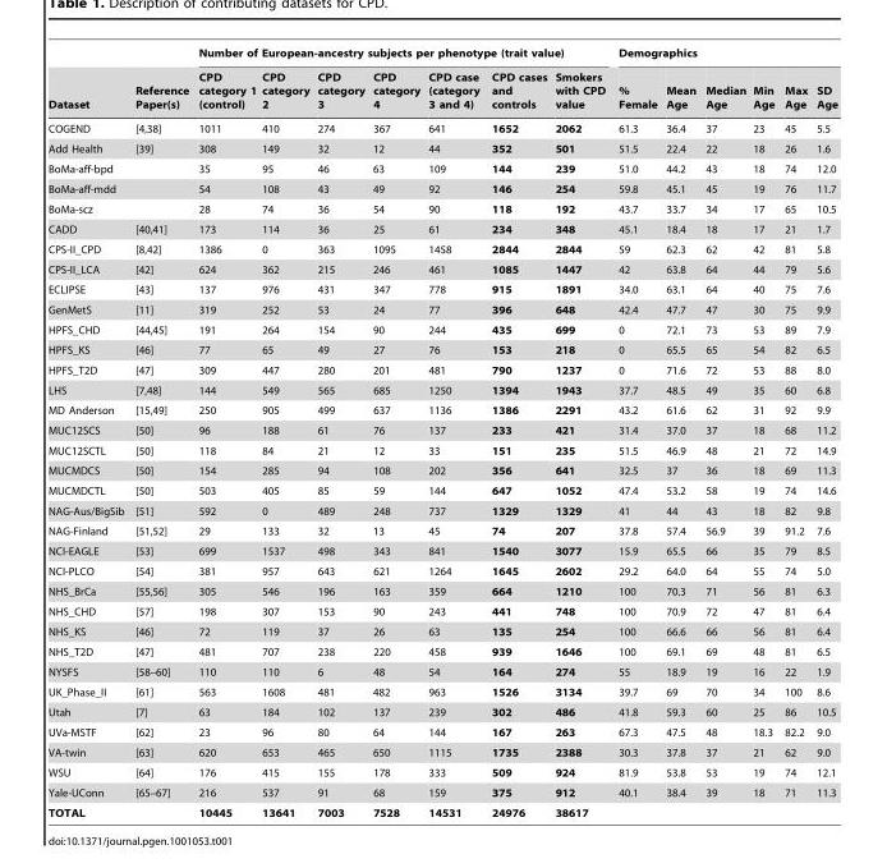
<table><thead><tr><td rowspan="2">Dataset</td><td rowspan="2">Reference Paper(s)</td><td colspan="7">Number of European-ancestry subjects per phenotype (trait value)</td><td colspan="6">Demographics</td></tr><tr><td>CPD category 1 (control)</td><td>CPD category 2</td><td>CPD category 3</td><td>CPD category 4</td><td>CPD case (category 3 and 4)</td><td>CPD cases and controls</td><td>Smokers with CPD value</td><td>% Female</td><td>Mean Age</td><td>Median Age</td><td>Min Age</td><td>Max Age</td><td>SD Age</td></tr></thead><tbody><tr><td>COGEND</td><td>[4,38]</td><td>1011</td><td>410</td><td>274</td><td>367</td><td>641</td><td>1652</td><td>2062</td><td>61.3</td><td>36.4</td><td>37</td><td>23</td><td>45</td><td>5.5</td></tr><tr><td>Add Health</td><td>[39]</td><td>308</td><td>149</td><td>32</td><td>12</td><td>44</td><td>352</td><td>501</td><td>51.5</td><td>22.4</td><td>22</td><td>18</td><td>26</td><td>1.6</td></tr><tr><td>BoMa-aff-bpd</td><td></td><td>35</td><td>95</td><td>46</td><td>63</td><td>109</td><td>144</td><td>239</td><td>51.0</td><td>44.2</td><td>43</td><td>18</td><td>74</td><td>12.0</td></tr><tr><td>BoMa-aff-mdd</td><td></td><td>54</td><td>108</td><td>43</td><td>49</td><td>92</td><td>146</td><td>254</td><td>59.8</td><td>45.1</td><td>45</td><td>19</td><td>76</td><td>11.7</td></tr><tr><td>BoMa-scz</td><td></td><td>28</td><td>74</td><td>36</td><td>54</td><td>90</td><td>118</td><td>192</td><td>43.7</td><td>33.7</td><td>34</td><td>17</td><td>65</td><td>10.5</td></tr><tr><td>CADD</td><td>[40,41]</td><td>173</td><td>114</td><td>36</td><td>25</td><td>61</td><td>234</td><td>348</td><td>45.1</td><td>18.4</td><td>18</td><td>17</td><td>21</td><td>1.7</td></tr><tr><td>CPS-II_CPD</td><td>[8,42]</td><td>1386</td><td>0</td><td>363</td><td>1095</td><td>1458</td><td>2844</td><td>2844</td><td>59</td><td>62.3</td><td>62</td><td>42</td><td>81</td><td>5.8</td></tr><tr><td>CPS-II_LCA</td><td>[42]</td><td>624</td><td>362</td><td>215</td><td>246</td><td>461</td><td>1085</td><td>1447</td><td>42</td><td>63.8</td><td>64</td><td>44</td><td>79</td><td>5.6</td></tr><tr><td>ECLIPSE</td><td>[43]</td><td>137</td><td>976</td><td>431</td><td>347</td><td>778</td><td>915</td><td>1891</td><td>34.0</td><td>63.1</td><td>64</td><td>40</td><td>75</td><td>7.6</td></tr><tr><td>GenMetS</td><td>[11]</td><td>319</td><td>252</td><td>53</td><td>24</td><td>77</td><td>396</td><td>648</td><td>42.4</td><td>47.7</td><td>47</td><td>30</td><td>75</td><td>9.9</td></tr><tr><td>HPFS_CHD</td><td>[44,45]</td><td>191</td><td>264</td><td>154</td><td>90</td><td>244</td><td>435</td><td>699</td><td>0</td><td>72.1</td><td>73</td><td>53</td><td>89</td><td>7.9</td></tr><tr><td>HPFS_KS</td><td>[46]</td><td>77</td><td>65</td><td>49</td><td>27</td><td>76</td><td>153</td><td>218</td><td>0</td><td>65.5</td><td>65</td><td>54</td><td>82</td><td>6.5</td></tr><tr><td>HPFS_T2D</td><td>[47]</td><td>309</td><td>447</td><td>280</td><td>201</td><td>481</td><td>790</td><td>1237</td><td>0</td><td>71.6</td><td>72</td><td>53</td><td>88</td><td>8.0</td></tr><tr><td>LHS</td><td>[7,48]</td><td>144</td><td>549</td><td>565</td><td>685</td><td>1250</td><td>1394</td><td>1943</td><td>37.7</td><td>48.5</td><td>49</td><td>35</td><td>60</td><td>6.8</td></tr><tr><td>MD Anderson</td><td>[15,49]</td><td>250</td><td>905</td><td>499</td><td>637</td><td>1136</td><td>1386</td><td>2291</td><td>43.2</td><td>61.6</td><td>62</td><td>31</td><td>92</td><td>9.9</td></tr><tr><td>MUC12SCS</td><td>[50]</td><td>96</td><td>188</td><td>61</td><td>76</td><td>137</td><td>233</td><td>421</td><td>31.4</td><td>37.0</td><td>37</td><td>18</td><td>68</td><td>11.2</td></tr><tr><td>MUC12SCTL</td><td>[50]</td><td>118</td><td>84</td><td>21</td><td>12</td><td>33</td><td>151</td><td>235</td><td>51.5</td><td>46.9</td><td>48</td><td>21</td><td>72</td><td>14.9</td></tr><tr><td>MUCMDCS</td><td>[50]</td><td>154</td><td>285</td><td>94</td><td>108</td><td>202</td><td>356</td><td>641</td><td>32.5</td><td>37</td><td>36</td><td>18</td><td>69</td><td>11.3</td></tr><tr><td>MUCMDCTL</td><td>[50]</td><td>503</td><td>405</td><td>85</td><td>59</td><td>144</td><td>647</td><td>1052</td><td>47.4</td><td>53.2</td><td>58</td><td>19</td><td>74</td><td>14.6</td></tr><tr><td>NAG-Aus/BigSib</td><td>[51]</td><td>592</td><td>0</td><td>489</td><td>248</td><td>737</td><td>1329</td><td>1329</td><td>41</td><td>44</td><td>43</td><td>18</td><td>82</td><td>9.8</td></tr><tr><td>NAG-Finland</td><td>[51,52]</td><td>29</td><td>133</td><td>32</td><td>13</td><td>45</td><td>74</td><td>207</td><td>37.8</td><td>57.4</td><td>56.9</td><td>39</td><td>91.2</td><td>7.6</td></tr><tr><td>NCI-EAGLE</td><td>[53]</td><td>699</td><td>1537</td><td>498</td><td>343</td><td>841</td><td>1540</td><td>3077</td><td>15.9</td><td>65.5</td><td>66</td><td>35</td><td>79</td><td>8.5</td></tr><tr><td>NCI-PLCO</td><td>[54]</td><td>381</td><td>957</td><td>643</td><td>621</td><td>1264</td><td>1645</td><td>2602</td><td>29.2</td><td>64.0</td><td>64</td><td>55</td><td>74</td><td>5.0</td></tr><tr><td>NHS_BrCa</td><td>[55,56]</td><td>305</td><td>546</td><td>196</td><td>163</td><td>359</td><td>664</td><td>1210</td><td>100</td><td>70.3</td><td>71</td><td>56</td><td>81</td><td>6.3</td></tr><tr><td>NHS_CHD</td><td>[57]</td><td>198</td><td>307</td><td>153</td><td>90</td><td>243</td><td>441</td><td>748</td><td>100</td><td>70.9</td><td>72</td><td>47</td><td>81</td><td>6.4</td></tr><tr><td>NHS_KS</td><td>[46]</td><td>72</td><td>119</td><td>37</td><td>26</td><td>63</td><td>135</td><td>254</td><td>100</td><td>66.6</td><td>66</td><td>56</td><td>81</td><td>6.4</td></tr><tr><td>NHS_T2D</td><td>[47]</td><td>481</td><td>707</td><td>238</td><td>220</td><td>458</td><td>939</td><td>1646</td><td>100</td><td>69.1</td><td>69</td><td>48</td><td>81</td><td>6.5</td></tr><tr><td>NYSFS</td><td>[58–60]</td><td>110</td><td>110</td><td>6</td><td>48</td><td>54</td><td>164</td><td>274</td><td>55</td><td>18.9</td><td>19</td><td>16</td><td>22</td><td>1.9</td></tr><tr><td>UK_Phase_II</td><td>[61]</td><td>563</td><td>1608</td><td>481</td><td>482</td><td>963</td><td>1526</td><td>3134</td><td>39.7</td><td>69</td><td>70</td><td>34</td><td>100</td><td>8.6</td></tr><tr><td>Utah</td><td>[7]</td><td>63</td><td>184</td><td>102</td><td>137</td><td>239</td><td>302</td><td>486</td><td>41.8</td><td>59.3</td><td>60</td><td>25</td><td>86</td><td>10.5</td></tr><tr><td>UVa-MSTF</td><td>[62]</td><td>23</td><td>96</td><td>80</td><td>64</td><td>144</td><td>167</td><td>263</td><td>67.3</td><td>47.5</td><td>48</td><td>18.3</td><td>82.2</td><td>9.0</td></tr><tr><td>VA-twin</td><td>[63]</td><td>620</td><td>653</td><td>465</td><td>650</td><td>1115</td><td>1735</td><td>2388</td><td>30.3</td><td>37.8</td><td>37</td><td>21</td><td>62</td><td>9.0</td></tr><tr><td>WSU</td><td>[64]</td><td>176</td><td>415</td><td>155</td><td>178</td><td>333</td><td>509</td><td>924</td><td>81.9</td><td>53.8</td><td>53</td><td>19</td><td>74</td><td>12.1</td></tr><tr><td>Yale-UConn</td><td>[65–67]</td><td>216</td><td>537</td><td>91</td><td>68</td><td>159</td><td>375</td><td>912</td><td>40.1</td><td>38.4</td><td>39</td><td>18</td><td>71</td><td>11.3</td></tr><tr><td>TOTAL</td><td></td><td>10445</td><td>13641</td><td>7003</td><td>7528</td><td>14531</td><td>24976</td><td>38617</td><td></td><td></td><td></td><td></td><td></td><td></td></tr></tbody></table>